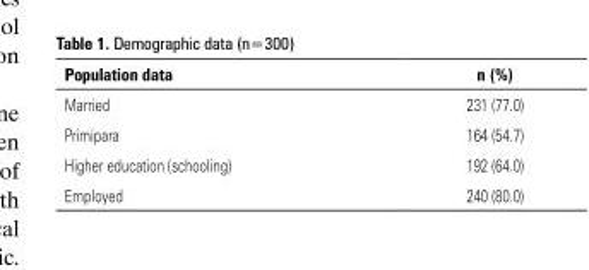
<table><thead><tr><td>Population data</td><td>n (%)</td></tr></thead><tbody><tr><td>Married</td><td>231 (77.0)</td></tr><tr><td>Primipara</td><td>164 (54.7)</td></tr><tr><td>Higher education (schooling)</td><td>192 (64.0)</td></tr><tr><td>Employed</td><td>240 (80.0)</td></tr></tbody></table>